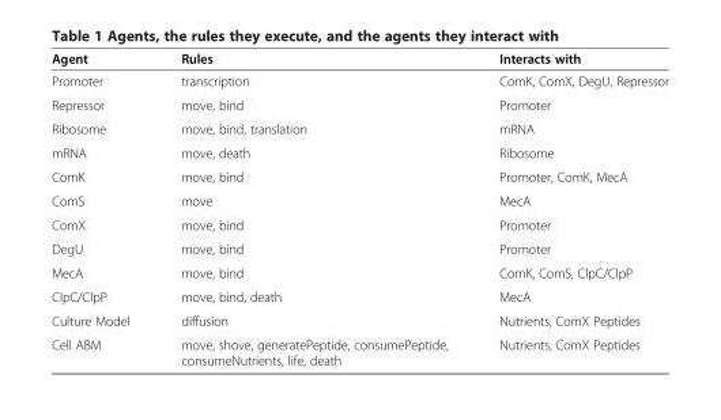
<table><thead><tr><td>Agent</td><td>Rules</td><td>Interacts with</td></tr></thead><tbody><tr><td>Promoter</td><td>transcription</td><td>ComK, ComX, DegU, Repressor</td></tr><tr><td>Repressor</td><td>move, bind</td><td>Promoter</td></tr><tr><td>Ribosome</td><td>move, bind, translation</td><td>mRNA</td></tr><tr><td>mRNA</td><td>move, death</td><td>Ribosome</td></tr><tr><td>ComK</td><td>move, bind</td><td>Promoter, ComK, MecA</td></tr><tr><td>ComS</td><td>move</td><td>MecA</td></tr><tr><td>ComX</td><td>move, bind</td><td>Promoter</td></tr><tr><td>DegU</td><td>move, bind</td><td>Promoter</td></tr><tr><td>MecA</td><td>move, bind</td><td>ComK, ComS, ClpC/ClpP</td></tr><tr><td>ClpC/ClpP</td><td>move, bind, death</td><td>MecA</td></tr><tr><td>Culture Model</td><td>diffusion</td><td>Nutrients, ComX Peptides</td></tr><tr><td>Cell ABM</td><td>move, shove, generatePeptide, consumePeptide, consumeNutrients, life, death</td><td>Nutrients, ComX Peptides</td></tr></tbody></table>